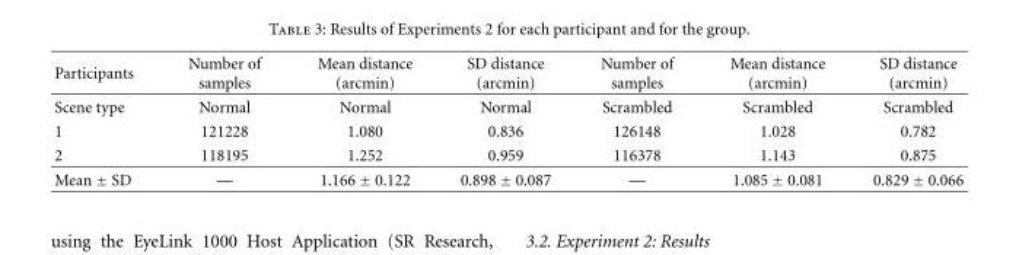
<table><thead><tr><td>Participants</td><td>Number of samples</td><td>Mean distance (arcmin)</td><td>SD distance (arcmin)</td><td>Number of samples</td><td>Mean distance (arcmin)</td><td>SD distance (arcmin)</td></tr></thead><tbody><tr><td>Scene type</td><td>Normal</td><td>Normal</td><td>Normal</td><td>Scrambled</td><td>Scrambled</td><td>Scrambled</td></tr><tr><td>1</td><td>121228</td><td>1.080</td><td>0.836</td><td>126148</td><td>1.028</td><td>0.782</td></tr><tr><td>2</td><td>118195</td><td>1.252</td><td>0.959</td><td>116378</td><td>1.143</td><td>0.875</td></tr><tr><td>Mean ± SD</td><td>—</td><td>1.166 ± 0.122</td><td>0.898 ± 0.087</td><td>—</td><td>1.085 ± 0.081</td><td>0.829 ± 0.066</td></tr></tbody></table>